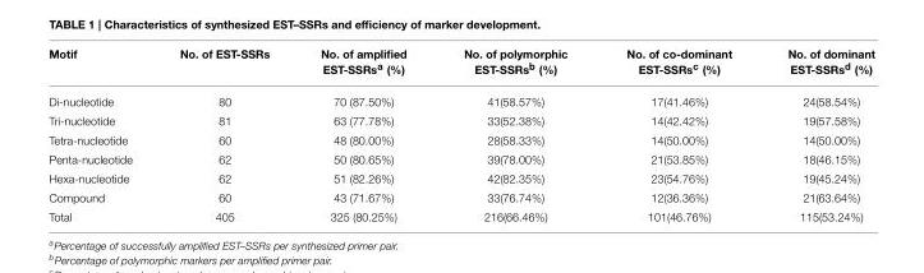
<table><thead><tr><td>Motif</td><td>No. of EST-SSRs</td><td>No. of amplified EST-SSRs<sup>a</sup> (%)</td><td>No. of polymorphic EST-SSRs<sup>b</sup> (%)</td><td>No. of co-dominant EST-SSRs<sup>c</sup> (%)</td><td>No. of dominant EST-SSRs<sup>d</sup> (%)</td></tr></thead><tbody><tr><td>Di-nucleotide</td><td>80</td><td>70 (87.50%)</td><td>41(58.57%)</td><td>17(41.46%)</td><td>24(58.54%)</td></tr><tr><td>Tri-nucleotide</td><td>81</td><td>63 (77.78%)</td><td>33(52.38%)</td><td>14(42.42%)</td><td>19(57.58%)</td></tr><tr><td>Tetra-nucleotide</td><td>60</td><td>48 (80.00%)</td><td>28(58.33%)</td><td>14(50.00%)</td><td>14(50.00%)</td></tr><tr><td>Penta-nucleotide</td><td>62</td><td>50 (80.65%)</td><td>39(78.00%)</td><td>21(53.85%)</td><td>18(46.15%)</td></tr><tr><td>Hexa-nucleotide</td><td>62</td><td>51 (82.26%)</td><td>42(82.35%)</td><td>23(54.76%)</td><td>19(45.24%)</td></tr><tr><td>Compound</td><td>60</td><td>43 (71.67%)</td><td>33(76.74%)</td><td>12(36.36%)</td><td>21(63.64%)</td></tr><tr><td>Total</td><td>405</td><td>325 (80.25%)</td><td>216(66.46%)</td><td>101(46.76%)</td><td>115(53.24%)</td></tr></tbody></table>